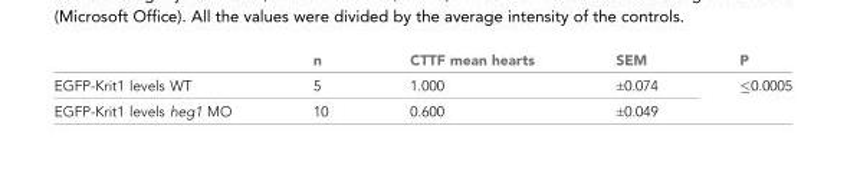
<table><thead><tr><td></td><td>n</td><td>CTTF mean hearts</td><td>SEM</td><td>P</td></tr></thead><tbody><tr><td>EGFP-Krit1 levels WT</td><td>5</td><td>1.000</td><td>±0.074</td><td rowspan="2">≤0.0005</td></tr><tr><td>EGFP-Krit1 levels heg1 MO</td><td>10</td><td>0.600</td><td>±0.049</td></tr></tbody></table>